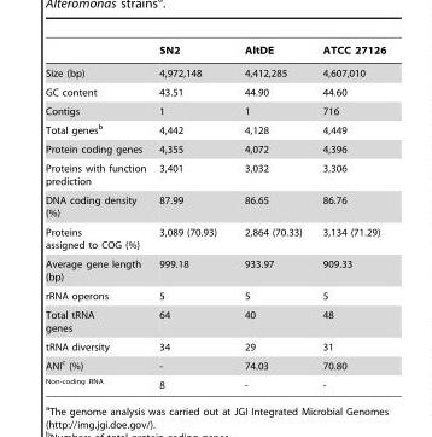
<table><thead><tr><td></td><td>SN2</td><td>AltDE</td><td>ATCC 27126</td></tr></thead><tbody><tr><td>Size (bp)</td><td>4,972,148</td><td>4,412,285</td><td>4,607,010</td></tr><tr><td>GC content</td><td>43.51</td><td>44.90</td><td>44.60</td></tr><tr><td>Contigs</td><td>1</td><td>1</td><td>716</td></tr><tr><td>Total genes<sup>b</sup></td><td>4,442</td><td>4,128</td><td>4,449</td></tr><tr><td>Protein coding genes</td><td>4,355</td><td>4,072</td><td>4,396</td></tr><tr><td>Proteins with function prediction</td><td>3,401</td><td>3,032</td><td>3,306</td></tr><tr><td>DNA coding density (%)</td><td>87.99</td><td>86.65</td><td>86.76</td></tr><tr><td>Proteins assigned to COG (%)</td><td>3,089 (70.93)</td><td>2,864 (70.33)</td><td>3,134 (71.29)</td></tr><tr><td>Average gene length (bp)</td><td>999.18</td><td>933.97</td><td>909.33</td></tr><tr><td>rRNA operons</td><td>5</td><td>5</td><td>5</td></tr><tr><td>Total tRNA genes</td><td>64</td><td>40</td><td>48</td></tr><tr><td>tRNA diversity</td><td>34</td><td>29</td><td>31</td></tr><tr><td>ANI<sup>c</sup> (%)</td><td>-</td><td>74.03</td><td>70.80</td></tr><tr><td><sup>Non-coding RNA</sup></td><td>8</td><td>-</td><td>-</td></tr></tbody></table>